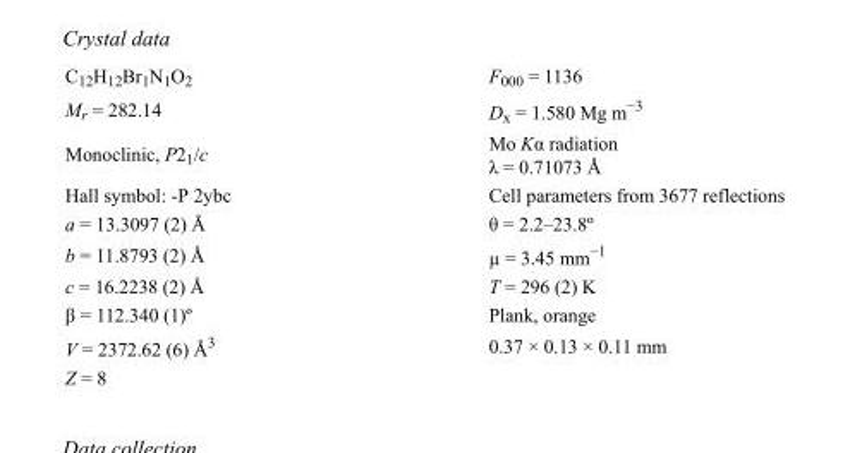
<table><tbody><tr><td>C12H12Br1N1O2</td><td>F000 = 1136</td></tr><tr><td>M<sub>r</sub> = 282.14</td><td>D<sub>x</sub> = 1.580 Mg m<sup>−3</sup></td></tr><tr><td>Monoclinic, P2<sub>1</sub>/c</td><td>Mo Kα radiation λ = 0.71073 Å</td></tr><tr><td>Hall symbol: -P 2ybc</td><td>Cell parameters from 3677 reflections</td></tr><tr><td>a = 13.3097 (2) Å</td><td>θ = 2.2–23.8º</td></tr><tr><td>b = 11.8793 (2) Å</td><td>µ = 3.45 mm<sup>−1</sup></td></tr><tr><td>c = 16.2238 (2) Å</td><td>T = 296 (2) K</td></tr><tr><td>β = 112.340 (1)º</td><td>Plank, orange</td></tr><tr><td>V = 2372.62 (6) Å<sup>3</sup></td><td>0.37 × 0.13 × 0.11 mm</td></tr><tr><td>Z = 8</td><td></td></tr></tbody></table>